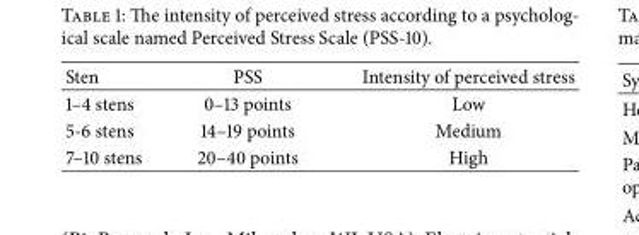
<table><thead><tr><td>Sten</td><td>PSS</td><td>Intensity of perceived stress</td></tr></thead><tbody><tr><td>1–4 stens</td><td>0–13 points</td><td>Low</td></tr><tr><td>5-6 stens</td><td>14–19 points</td><td>Medium</td></tr><tr><td>7–10 stens</td><td>20–40 points</td><td>High</td></tr></tbody></table>